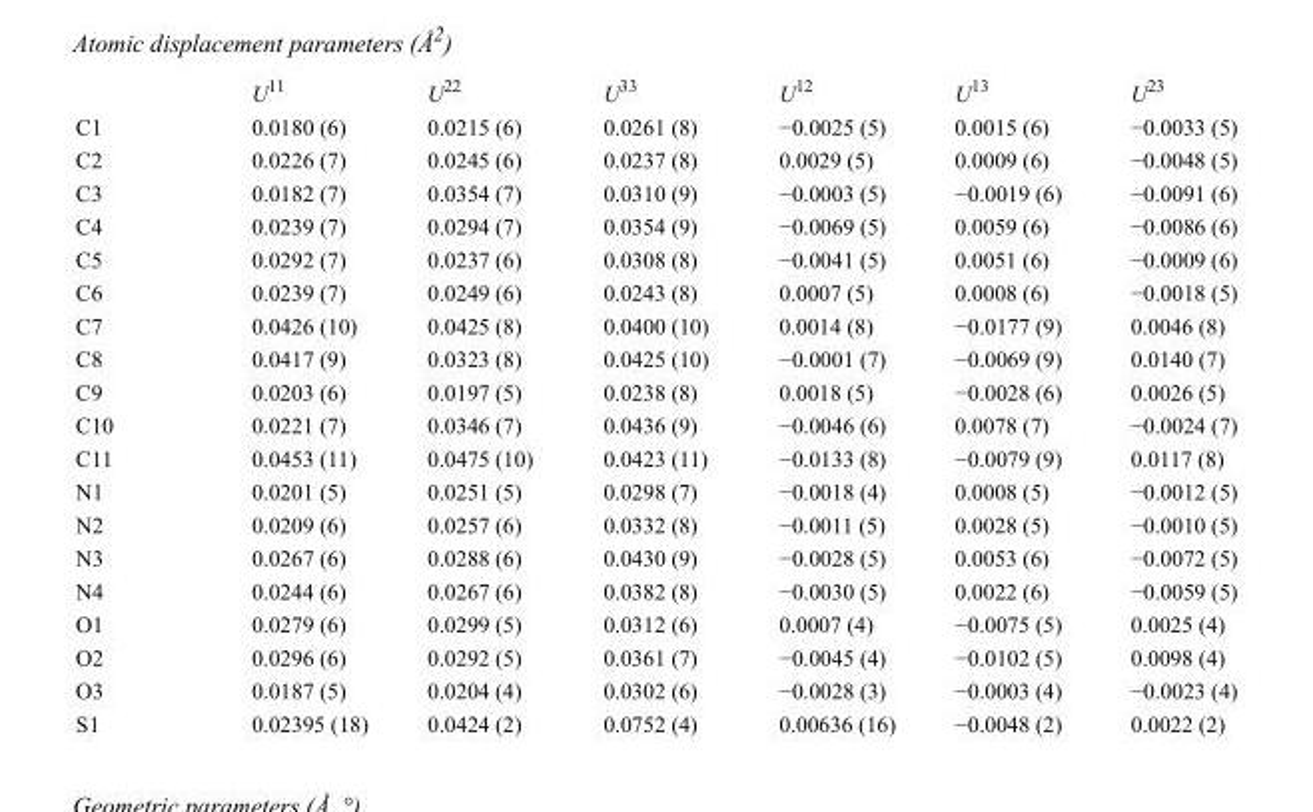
<table><thead><tr><td></td><td>U<sup>11</sup></td><td>U<sup>22</sup></td><td>U<sup>33</sup></td><td>U<sup>12</sup></td><td>U<sup>13</sup></td><td>U<sup>23</sup></td></tr></thead><tbody><tr><td>C1</td><td>0.0180 (6)</td><td>0.0215 (6)</td><td>0.0261 (8)</td><td>−0.0025 (5)</td><td>0.0015 (6)</td><td>−0.0033 (5)</td></tr><tr><td>C2</td><td>0.0226 (7)</td><td>0.0245 (6)</td><td>0.0237 (8)</td><td>0.0029 (5)</td><td>0.0009 (6)</td><td>−0.0048 (5)</td></tr><tr><td>C3</td><td>0.0182 (7)</td><td>0.0354 (7)</td><td>0.0310 (9)</td><td>−0.0003 (5)</td><td>−0.0019 (6)</td><td>−0.0091 (6)</td></tr><tr><td>C4</td><td>0.0239 (7)</td><td>0.0294 (7)</td><td>0.0354 (9)</td><td>−0.0069 (5)</td><td>0.0059 (6)</td><td>−0.0086 (6)</td></tr><tr><td>C5</td><td>0.0292 (7)</td><td>0.0237 (6)</td><td>0.0308 (8)</td><td>−0.0041 (5)</td><td>0.0051 (6)</td><td>−0.0009 (6)</td></tr><tr><td>C6</td><td>0.0239 (7)</td><td>0.0249 (6)</td><td>0.0243 (8)</td><td>0.0007 (5)</td><td>0.0008 (6)</td><td>−0.0018 (5)</td></tr><tr><td>C7</td><td>0.0426 (10)</td><td>0.0425 (8)</td><td>0.0400 (10)</td><td>0.0014 (8)</td><td>−0.0177 (9)</td><td>0.0046 (8)</td></tr><tr><td>C8</td><td>0.0417 (9)</td><td>0.0323 (8)</td><td>0.0425 (10)</td><td>−0.0001 (7)</td><td>−0.0069 (9)</td><td>0.0140 (7)</td></tr><tr><td>C9</td><td>0.0203 (6)</td><td>0.0197 (5)</td><td>0.0238 (8)</td><td>0.0018 (5)</td><td>−0.0028 (6)</td><td>0.0026 (5)</td></tr><tr><td>C10</td><td>0.0221 (7)</td><td>0.0346 (7)</td><td>0.0436 (9)</td><td>−0.0046 (6)</td><td>0.0078 (7)</td><td>−0.0024 (7)</td></tr><tr><td>C11</td><td>0.0453 (11)</td><td>0.0475 (10)</td><td>0.0423 (11)</td><td>−0.0133 (8)</td><td>−0.0079 (9)</td><td>0.0117 (8)</td></tr><tr><td>N1</td><td>0.0201 (5)</td><td>0.0251 (5)</td><td>0.0298 (7)</td><td>−0.0018 (4)</td><td>0.0008 (5)</td><td>−0.0012 (5)</td></tr><tr><td>N2</td><td>0.0209 (6)</td><td>0.0257 (6)</td><td>0.0332 (8)</td><td>−0.0011 (5)</td><td>0.0028 (5)</td><td>−0.0010 (5)</td></tr><tr><td>N3</td><td>0.0267 (6)</td><td>0.0288 (6)</td><td>0.0430 (9)</td><td>−0.0028 (5)</td><td>0.0053 (6)</td><td>−0.0072 (5)</td></tr><tr><td>N4</td><td>0.0244 (6)</td><td>0.0267 (6)</td><td>0.0382 (8)</td><td>−0.0030 (5)</td><td>0.0022 (6)</td><td>−0.0059 (5)</td></tr><tr><td>O1</td><td>0.0279 (6)</td><td>0.0299 (5)</td><td>0.0312 (6)</td><td>0.0007 (4)</td><td>−0.0075 (5)</td><td>0.0025 (4)</td></tr><tr><td>O2</td><td>0.0296 (6)</td><td>0.0292 (5)</td><td>0.0361 (7)</td><td>−0.0045 (4)</td><td>−0.0102 (5)</td><td>0.0098 (4)</td></tr><tr><td>O3</td><td>0.0187 (5)</td><td>0.0204 (4)</td><td>0.0302 (6)</td><td>−0.0028 (3)</td><td>−0.0003 (4)</td><td>−0.0023 (4)</td></tr><tr><td>S1</td><td>0.02395 (18)</td><td>0.0424 (2)</td><td>0.0752 (4)</td><td>0.00636 (16)</td><td>−0.0048 (2)</td><td>0.0022 (2)</td></tr></tbody></table>